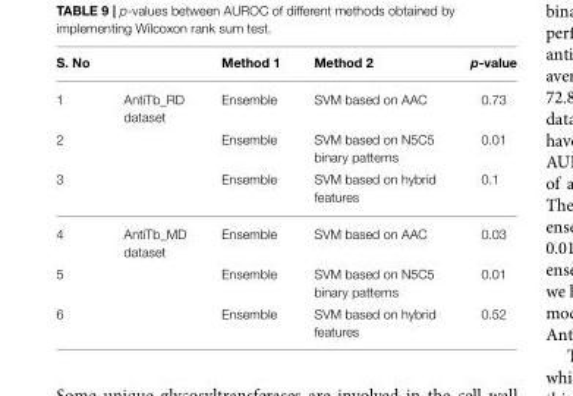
<table><thead><tr><td>S. No</td><td></td><td>Method 1</td><td>Method 2</td><td>p-value</td></tr></thead><tbody><tr><td>1</td><td>AntiTb_RD dataset</td><td>Ensemble</td><td>SVM based on AAC</td><td>0.73</td></tr><tr><td>2</td><td></td><td>Ensemble</td><td>SVM based on N5C5 binary patterns</td><td>0.01</td></tr><tr><td>3</td><td></td><td>Ensemble</td><td>SVM based on hybrid features</td><td>0.1</td></tr><tr><td>4</td><td>AntiTb_MD dataset</td><td>Ensemble</td><td>SVM based on AAC</td><td>0.03</td></tr><tr><td>5</td><td></td><td>Ensemble</td><td>SVM based on N5C5 binary patterns</td><td>0.01</td></tr><tr><td>6</td><td></td><td>Ensemble</td><td>SVM based on hybrid features</td><td>0.52</td></tr></tbody></table>